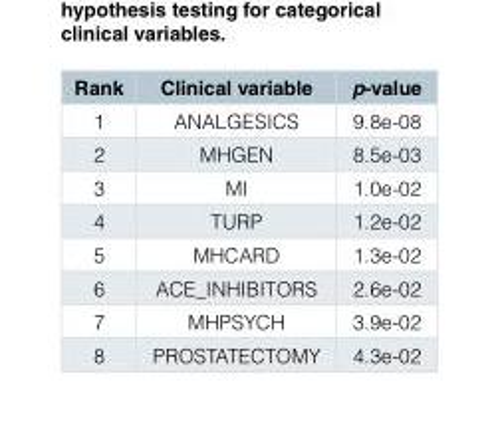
<table><thead><tr><td>Rank</td><td>Clinical variable</td><td>p-value</td></tr></thead><tbody><tr><td>1</td><td>ANALGESICS</td><td>9.8e-08</td></tr><tr><td>2</td><td>MHGEN</td><td>8.5e-03</td></tr><tr><td>3</td><td>MI</td><td>1.0e-02</td></tr><tr><td>4</td><td>TURP</td><td>1.2e-02</td></tr><tr><td>5</td><td>MHCARD</td><td>1.3e-02</td></tr><tr><td>6</td><td>ACE_INHIBITORS</td><td>2.6e-02</td></tr><tr><td>7</td><td>MHPSYCH</td><td>3.9e-02</td></tr><tr><td>8</td><td>PROSTATECTOMY</td><td>4.3e-02</td></tr></tbody></table>